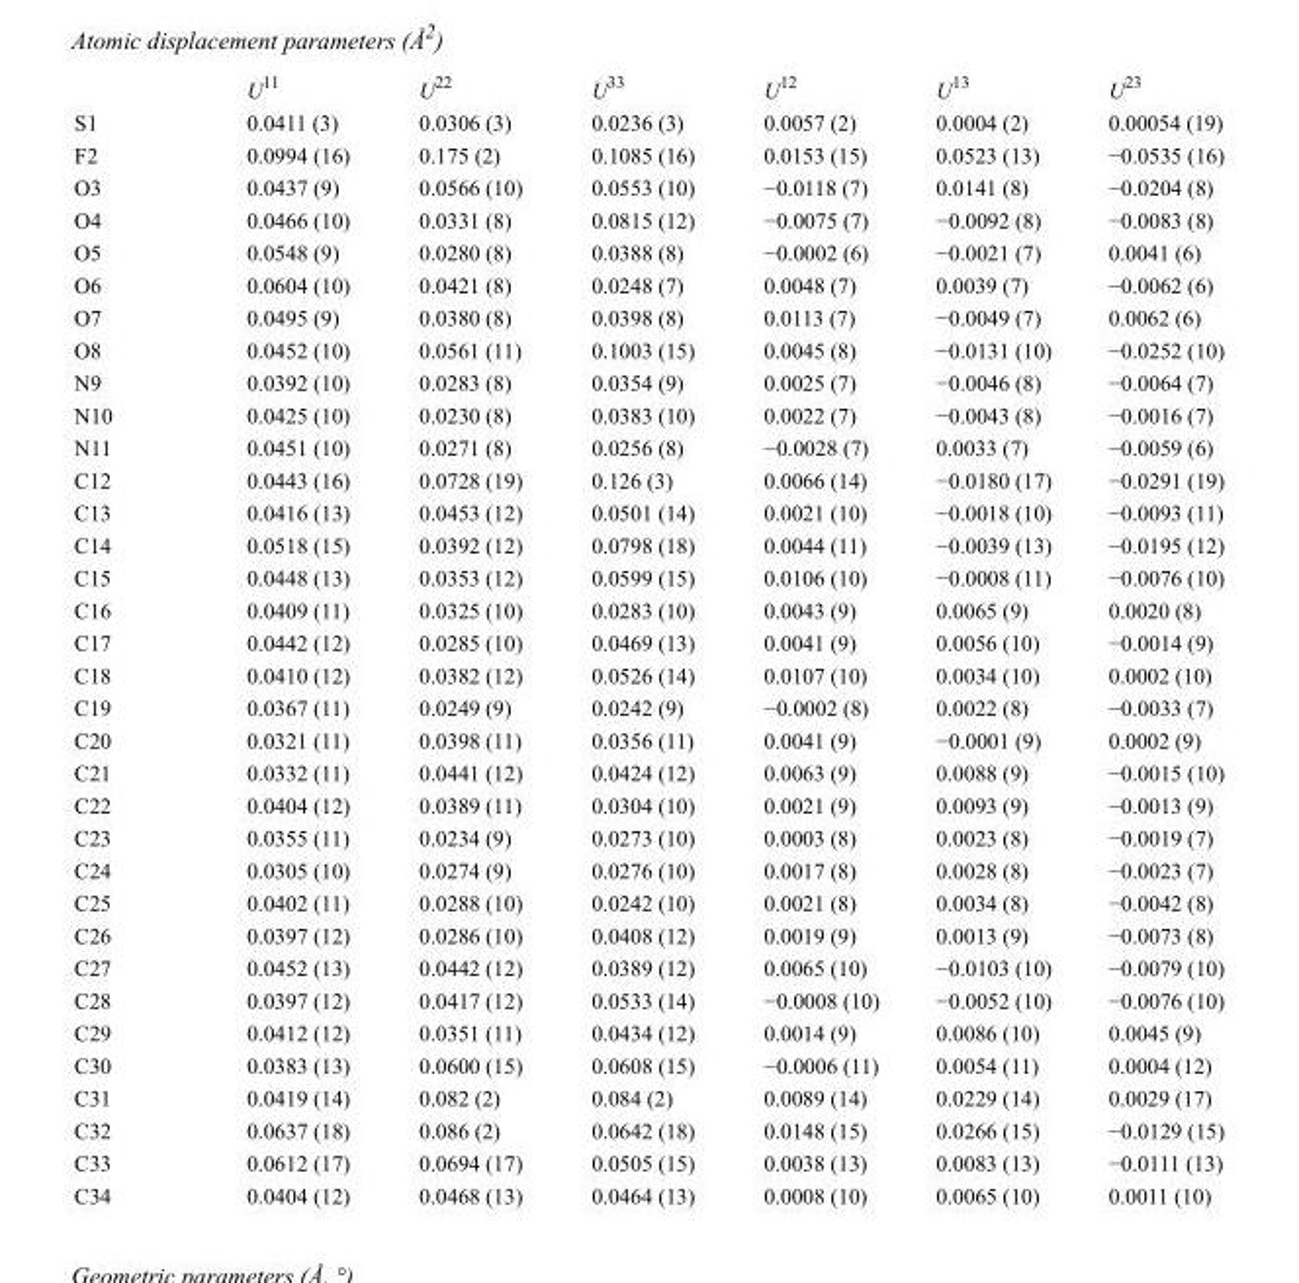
<table><thead><tr><td></td><td>U<sup>11</sup></td><td>U<sup>22</sup></td><td>U<sup>33</sup></td><td>U<sup>12</sup></td><td>U<sup>13</sup></td><td>U<sup>23</sup></td></tr></thead><tbody><tr><td>S1</td><td>0.0411 (3)</td><td>0.0306 (3)</td><td>0.0236 (3)</td><td>0.0057 (2)</td><td>0.0004 (2)</td><td>0.00054 (19)</td></tr><tr><td>F2</td><td>0.0994 (16)</td><td>0.175 (2)</td><td>0.1085 (16)</td><td>0.0153 (15)</td><td>0.0523 (13)</td><td>−0.0535 (16)</td></tr><tr><td>O3</td><td>0.0437 (9)</td><td>0.0566 (10)</td><td>0.0553 (10)</td><td>−0.0118 (7)</td><td>0.0141 (8)</td><td>−0.0204 (8)</td></tr><tr><td>O4</td><td>0.0466 (10)</td><td>0.0331 (8)</td><td>0.0815 (12)</td><td>−0.0075 (7)</td><td>−0.0092 (8)</td><td>−0.0083 (8)</td></tr><tr><td>O5</td><td>0.0548 (9)</td><td>0.0280 (8)</td><td>0.0388 (8)</td><td>−0.0002 (6)</td><td>−0.0021 (7)</td><td>0.0041 (6)</td></tr><tr><td>O6</td><td>0.0604 (10)</td><td>0.0421 (8)</td><td>0.0248 (7)</td><td>0.0048 (7)</td><td>0.0039 (7)</td><td>−0.0062 (6)</td></tr><tr><td>O7</td><td>0.0495 (9)</td><td>0.0380 (8)</td><td>0.0398 (8)</td><td>0.0113 (7)</td><td>−0.0049 (7)</td><td>0.0062 (6)</td></tr><tr><td>O8</td><td>0.0452 (10)</td><td>0.0561 (11)</td><td>0.1003 (15)</td><td>0.0045 (8)</td><td>−0.0131 (10)</td><td>−0.0252 (10)</td></tr><tr><td>N9</td><td>0.0392 (10)</td><td>0.0283 (8)</td><td>0.0354 (9)</td><td>0.0025 (7)</td><td>−0.0046 (8)</td><td>−0.0064 (7)</td></tr><tr><td>N10</td><td>0.0425 (10)</td><td>0.0230 (8)</td><td>0.0383 (10)</td><td>0.0022 (7)</td><td>−0.0043 (8)</td><td>−0.0016 (7)</td></tr><tr><td>N11</td><td>0.0451 (10)</td><td>0.0271 (8)</td><td>0.0256 (8)</td><td>−0.0028 (7)</td><td>0.0033 (7)</td><td>−0.0059 (6)</td></tr><tr><td>C12</td><td>0.0443 (16)</td><td>0.0728 (19)</td><td>0.126 (3)</td><td>0.0066 (14)</td><td>−0.0180 (17)</td><td>−0.0291 (19)</td></tr><tr><td>C13</td><td>0.0416 (13)</td><td>0.0453 (12)</td><td>0.0501 (14)</td><td>0.0021 (10)</td><td>−0.0018 (10)</td><td>−0.0093 (11)</td></tr><tr><td>C14</td><td>0.0518 (15)</td><td>0.0392 (12)</td><td>0.0798 (18)</td><td>0.0044 (11)</td><td>−0.0039 (13)</td><td>−0.0195 (12)</td></tr><tr><td>C15</td><td>0.0448 (13)</td><td>0.0353 (12)</td><td>0.0599 (15)</td><td>0.0106 (10)</td><td>−0.0008 (11)</td><td>−0.0076 (10)</td></tr><tr><td>C16</td><td>0.0409 (11)</td><td>0.0325 (10)</td><td>0.0283 (10)</td><td>0.0043 (9)</td><td>0.0065 (9)</td><td>0.0020 (8)</td></tr><tr><td>C17</td><td>0.0442 (12)</td><td>0.0285 (10)</td><td>0.0469 (13)</td><td>0.0041 (9)</td><td>0.0056 (10)</td><td>−0.0014 (9)</td></tr><tr><td>C18</td><td>0.0410 (12)</td><td>0.0382 (12)</td><td>0.0526 (14)</td><td>0.0107 (10)</td><td>0.0034 (10)</td><td>0.0002 (10)</td></tr><tr><td>C19</td><td>0.0367 (11)</td><td>0.0249 (9)</td><td>0.0242 (9)</td><td>−0.0002 (8)</td><td>0.0022 (8)</td><td>−0.0033 (7)</td></tr><tr><td>C20</td><td>0.0321 (11)</td><td>0.0398 (11)</td><td>0.0356 (11)</td><td>0.0041 (9)</td><td>−0.0001 (9)</td><td>0.0002 (9)</td></tr><tr><td>C21</td><td>0.0332 (11)</td><td>0.0441 (12)</td><td>0.0424 (12)</td><td>0.0063 (9)</td><td>0.0088 (9)</td><td>−0.0015 (10)</td></tr><tr><td>C22</td><td>0.0404 (12)</td><td>0.0389 (11)</td><td>0.0304 (10)</td><td>0.0021 (9)</td><td>0.0093 (9)</td><td>−0.0013 (9)</td></tr><tr><td>C23</td><td>0.0355 (11)</td><td>0.0234 (9)</td><td>0.0273 (10)</td><td>0.0003 (8)</td><td>0.0023 (8)</td><td>−0.0019 (7)</td></tr><tr><td>C24</td><td>0.0305 (10)</td><td>0.0274 (9)</td><td>0.0276 (10)</td><td>0.0017 (8)</td><td>0.0028 (8)</td><td>−0.0023 (7)</td></tr><tr><td>C25</td><td>0.0402 (11)</td><td>0.0288 (10)</td><td>0.0242 (10)</td><td>0.0021 (8)</td><td>0.0034 (8)</td><td>−0.0042 (8)</td></tr><tr><td>C26</td><td>0.0397 (12)</td><td>0.0286 (10)</td><td>0.0408 (12)</td><td>0.0019 (9)</td><td>0.0013 (9)</td><td>−0.0073 (8)</td></tr><tr><td>C27</td><td>0.0452 (13)</td><td>0.0442 (12)</td><td>0.0389 (12)</td><td>0.0065 (10)</td><td>−0.0103 (10)</td><td>−0.0079 (10)</td></tr><tr><td>C28</td><td>0.0397 (12)</td><td>0.0417 (12)</td><td>0.0533 (14)</td><td>−0.0008 (10)</td><td>−0.0052 (10)</td><td>−0.0076 (10)</td></tr><tr><td>C29</td><td>0.0412 (12)</td><td>0.0351 (11)</td><td>0.0434 (12)</td><td>0.0014 (9)</td><td>0.0086 (10)</td><td>0.0045 (9)</td></tr><tr><td>C30</td><td>0.0383 (13)</td><td>0.0600 (15)</td><td>0.0608 (15)</td><td>−0.0006 (11)</td><td>0.0054 (11)</td><td>0.0004 (12)</td></tr><tr><td>C31</td><td>0.0419 (14)</td><td>0.082 (2)</td><td>0.084 (2)</td><td>0.0089 (14)</td><td>0.0229 (14)</td><td>0.0029 (17)</td></tr><tr><td>C32</td><td>0.0637 (18)</td><td>0.086 (2)</td><td>0.0642 (18)</td><td>0.0148 (15)</td><td>0.0266 (15)</td><td>−0.0129 (15)</td></tr><tr><td>C33</td><td>0.0612 (17)</td><td>0.0694 (17)</td><td>0.0505 (15)</td><td>0.0038 (13)</td><td>0.0083 (13)</td><td>−0.0111 (13)</td></tr><tr><td>C34</td><td>0.0404 (12)</td><td>0.0468 (13)</td><td>0.0464 (13)</td><td>0.0008 (10)</td><td>0.0065 (10)</td><td>0.0011 (10)</td></tr></tbody></table>